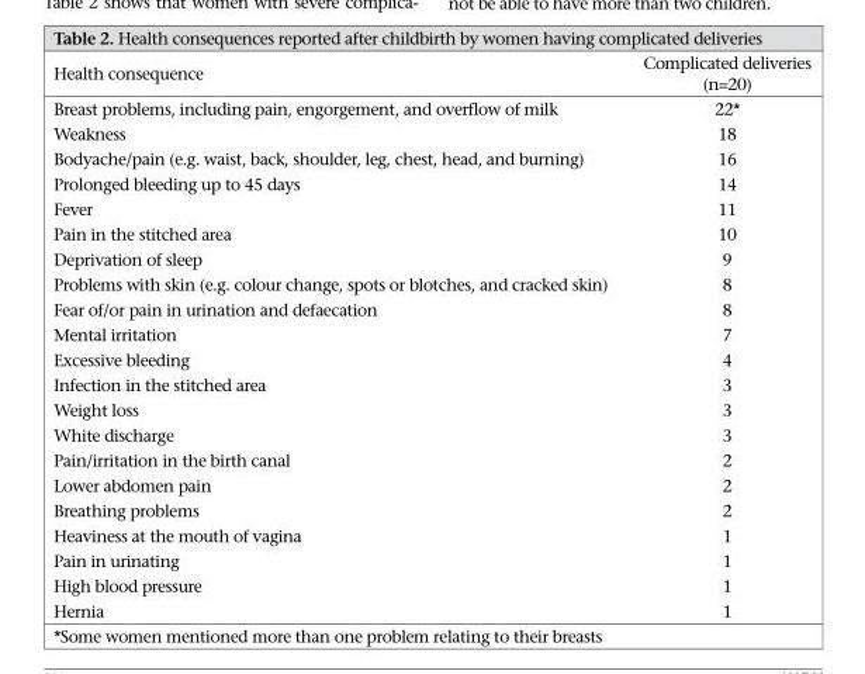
<table><thead><tr><td>Health consequence</td><td>Complicated deliveries (n=20)</td></tr></thead><tbody><tr><td>Breast problems, including pain, engorgement, and overflow of milk</td><td>22*</td></tr><tr><td>Weakness</td><td>18</td></tr><tr><td>Bodyache/pain (e.g. waist, back, shoulder, leg, chest, head, and burning)</td><td>16</td></tr><tr><td>Prolonged bleeding up to 45 days</td><td>14</td></tr><tr><td>Fever</td><td>11</td></tr><tr><td>Pain in the stitched area</td><td>10</td></tr><tr><td>Deprivation of sleep</td><td>9</td></tr><tr><td>Problems with skin (e.g. colour change, spots or blotches, and cracked skin)</td><td>8</td></tr><tr><td>Fear of/or pain in urination and defaecation</td><td>8</td></tr><tr><td>Mental irritation</td><td>7</td></tr><tr><td>Excessive bleeding</td><td>4</td></tr><tr><td>Infection in the stitched area</td><td>3</td></tr><tr><td>Weight loss</td><td>3</td></tr><tr><td>White discharge</td><td>3</td></tr><tr><td>Pain/irritation in the birth canal</td><td>2</td></tr><tr><td>Lower abdomen pain</td><td>2</td></tr><tr><td>Breathing problems</td><td>2</td></tr><tr><td>Heaviness at the mouth of vagina</td><td>1</td></tr><tr><td>Pain in urinating</td><td>1</td></tr><tr><td>High blood pressure</td><td>1</td></tr><tr><td>Hernia</td><td>1</td></tr></tbody></table>